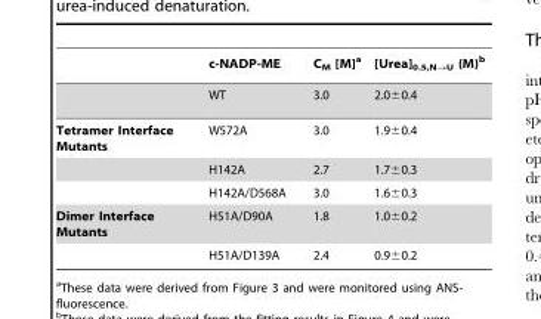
<table><thead><tr><td></td><td>c-NADP-ME</td><td>C<sub>M</sub> [M]<sup>a</sup></td><td>[Urea]<sub>0.5,N→U</sub> (M)<sup>b</sup></td></tr></thead><tbody><tr><td></td><td>WT</td><td>3.0</td><td>2.0±0.4</td></tr><tr><td rowspan="3">Tetramer Interface Mutants</td><td>W572A</td><td>3.0</td><td>1.9±0.4</td></tr><tr><td>H142A</td><td>2.7</td><td>1.7±0.3</td></tr><tr><td>H142A/D568A</td><td>3.0</td><td>1.6±0.3</td></tr><tr><td rowspan="2">Dimer Interface Mutants</td><td>H51A/D90A</td><td>1.8</td><td>1.0±0.2</td></tr><tr><td>H51A/D139A</td><td>2.4</td><td>0.9±0.2</td></tr></tbody></table>